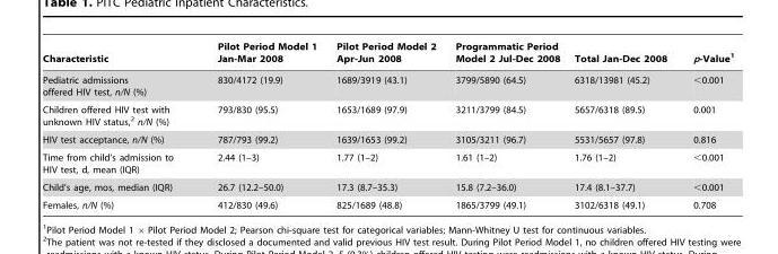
<table><thead><tr><td>Characteristic</td><td>Pilot Period Model 1 Jan-Mar 2008</td><td>Pilot Period Model 2 Apr-Jun 2008</td><td>Programmatic Period Model 2 Jul-Dec 2008</td><td>Total Jan-Dec 2008</td><td>p-Value<sup>1</sup></td></tr></thead><tbody><tr><td>Pediatric admissions offered HIV test, n/N (%)</td><td>830/4172 (19.9)</td><td>1689/3919 (43.1)</td><td>3799/5890 (64.5)</td><td>6318/13981 (45.2)</td><td>&lt;0.001</td></tr><tr><td>Children offered HIV test with unknown HIV status,<sup>2</sup> n/N (%)</td><td>793/830 (95.5)</td><td>1653/1689 (97.9)</td><td>3211/3799 (84.5)</td><td>5657/6318 (89.5)</td><td>0.001</td></tr><tr><td>HIV test acceptance, n/N (%)</td><td>787/793 (99.2)</td><td>1639/1653 (99.2)</td><td>3105/3211 (96.7)</td><td>5531/5657 (97.8)</td><td>0.816</td></tr><tr><td>Time from child’s admission to HIV test, d, mean (IQR)</td><td>2.44 (1–3)</td><td>1.77 (1–2)</td><td>1.61 (1–2)</td><td>1.76 (1–2)</td><td>&lt;0.001</td></tr><tr><td>Child’s age, mos, median (IQR)</td><td>26.7 (12.2–50.0)</td><td>17.3 (8.7–35.3)</td><td>15.8 (7.2–36.0)</td><td>17.4 (8.1–37.7)</td><td>&lt;0.001</td></tr><tr><td>Females, n/N (%)</td><td>412/830 (49.6)</td><td>825/1689 (48.8)</td><td>1865/3799 (49.1)</td><td>3102/6318 (49.1)</td><td>0.708</td></tr></tbody></table>